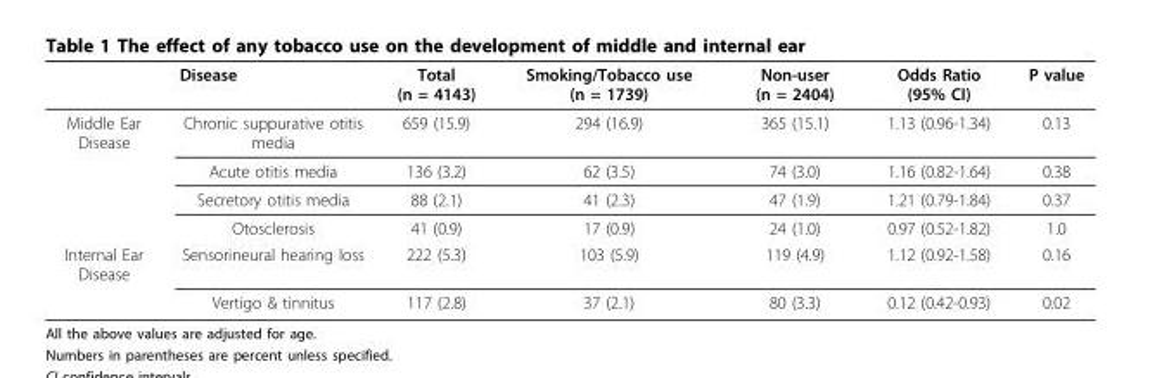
<table><thead><tr><td colspan="2">Disease</td><td rowspan="2">Total (n = 4143) 659 (15.9)</td><td rowspan="2">Smoking/Tobacco use (n = 1739) 294 (16.9)</td><td rowspan="2">Non-user (n = 2404) 365 (15.1)</td><td rowspan="2">Odds Ratio (95% CI) 1.13 (0.96-1.34)</td><td rowspan="2">P value 0.13</td></tr><tr><td>Middle Ear Disease</td><td>Chronic suppurative otitis media</td></tr></thead><tbody><tr><td></td><td>Acute otitis media</td><td>136 (3.2)</td><td>62 (3.5)</td><td>74 (3.0)</td><td>1.16 (0.82-1.64)</td><td>0.38</td></tr><tr><td></td><td>Secretory otitis media</td><td>88 (2.1)</td><td>41 (2.3)</td><td>47 (1.9)</td><td>1.21 (0.79-1.84)</td><td>0.37</td></tr><tr><td></td><td>Otosclerosis</td><td>41 (0.9)</td><td>17 (0.9)</td><td>24 (1.0)</td><td>0.97 (0.52-1.82)</td><td>1.0</td></tr><tr><td rowspan="2">Internal Ear Disease</td><td>Sensorineural hearing loss</td><td>222 (5.3)</td><td>103 (5.9)</td><td>119 (4.9)</td><td>1.12 (0.92-1.58)</td><td>0.16</td></tr><tr><td>Vertigo &amp; tinnitus</td><td>117 (2.8)</td><td>37 (2.1)</td><td>80 (3.3)</td><td>0.12 (0.42-0.93)</td><td>0.02</td></tr></tbody></table>